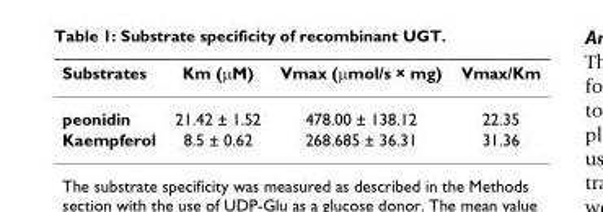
<table><thead><tr><td>Substrates</td><td>Km (μM)</td><td>Vmax (μmol/s × mg)</td><td>Vmax/Km</td></tr></thead><tbody><tr><td>peonidin</td><td>21.42 ± 1.52</td><td>478.00 ± 138.12</td><td>22.35</td></tr><tr><td>Kaempferol</td><td>8.5 ± 0.62</td><td>268.685 ± 36.31</td><td>31.36</td></tr></tbody></table>